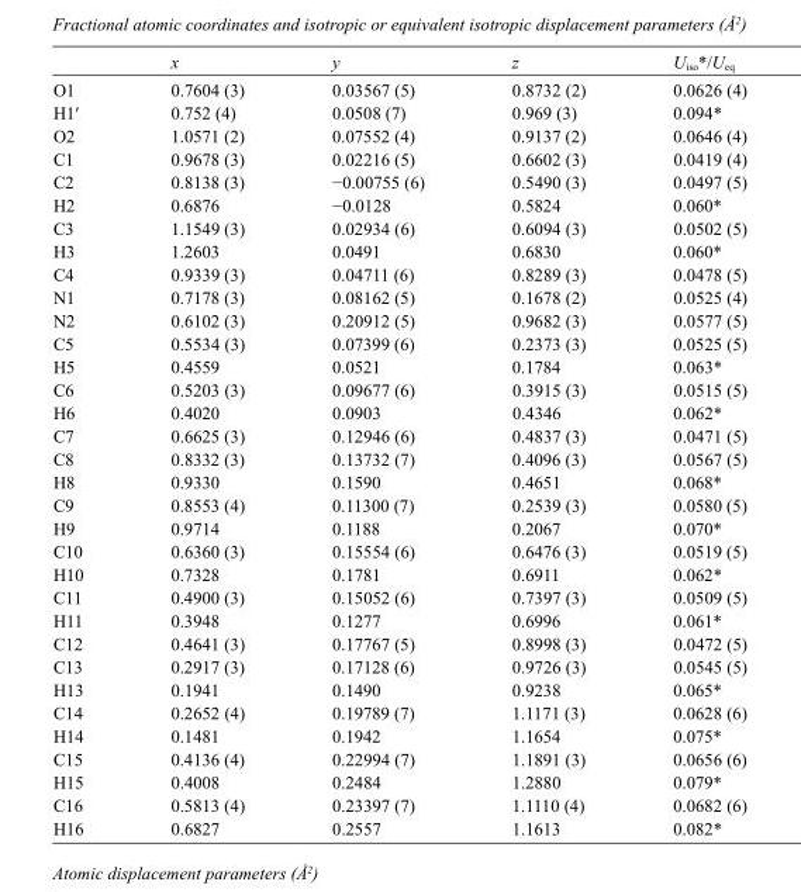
<table><thead><tr><td></td><td>x</td><td>y</td><td>z</td><td>U<sub>iso</sub>*/U<sub>eq</sub></td></tr></thead><tbody><tr><td>O1</td><td>0.7604 (3)</td><td>0.03567 (5)</td><td>0.8732 (2)</td><td>0.0626 (4)</td></tr><tr><td>H1′</td><td>0.752 (4)</td><td>0.0508 (7)</td><td>0.969 (3)</td><td>0.094*</td></tr><tr><td>O2</td><td>1.0571 (2)</td><td>0.07552 (4)</td><td>0.9137 (2)</td><td>0.0646 (4)</td></tr><tr><td>C1</td><td>0.9678 (3)</td><td>0.02216 (5)</td><td>0.6602 (3)</td><td>0.0419 (4)</td></tr><tr><td>C2</td><td>0.8138 (3)</td><td>−0.00755 (6)</td><td>0.5490 (3)</td><td>0.0497 (5)</td></tr><tr><td>H2</td><td>0.6876</td><td>−0.0128</td><td>0.5824</td><td>0.060*</td></tr><tr><td>C3</td><td>1.1549 (3)</td><td>0.02934 (6)</td><td>0.6094 (3)</td><td>0.0502 (5)</td></tr><tr><td>H3</td><td>1.2603</td><td>0.0491</td><td>0.6830</td><td>0.060*</td></tr><tr><td>C4</td><td>0.9339 (3)</td><td>0.04711 (6)</td><td>0.8289 (3)</td><td>0.0478 (5)</td></tr><tr><td>N1</td><td>0.7178 (3)</td><td>0.08162 (5)</td><td>0.1678 (2)</td><td>0.0525 (4)</td></tr><tr><td>N2</td><td>0.6102 (3)</td><td>0.20912 (5)</td><td>0.9682 (3)</td><td>0.0577 (5)</td></tr><tr><td>C5</td><td>0.5534 (3)</td><td>0.07399 (6)</td><td>0.2373 (3)</td><td>0.0525 (5)</td></tr><tr><td>H5</td><td>0.4559</td><td>0.0521</td><td>0.1784</td><td>0.063*</td></tr><tr><td>C6</td><td>0.5203 (3)</td><td>0.09677 (6)</td><td>0.3915 (3)</td><td>0.0515 (5)</td></tr><tr><td>H6</td><td>0.4020</td><td>0.0903</td><td>0.4346</td><td>0.062*</td></tr><tr><td>C7</td><td>0.6625 (3)</td><td>0.12946 (6)</td><td>0.4837 (3)</td><td>0.0471 (5)</td></tr><tr><td>C8</td><td>0.8332 (3)</td><td>0.13732 (7)</td><td>0.4096 (3)</td><td>0.0567 (5)</td></tr><tr><td>H8</td><td>0.9330</td><td>0.1590</td><td>0.4651</td><td>0.068*</td></tr><tr><td>C9</td><td>0.8553 (4)</td><td>0.11300 (7)</td><td>0.2539 (3)</td><td>0.0580 (5)</td></tr><tr><td>H9</td><td>0.9714</td><td>0.1188</td><td>0.2067</td><td>0.070*</td></tr><tr><td>C10</td><td>0.6360 (3)</td><td>0.15554 (6)</td><td>0.6476 (3)</td><td>0.0519 (5)</td></tr><tr><td>H10</td><td>0.7328</td><td>0.1781</td><td>0.6911</td><td>0.062*</td></tr><tr><td>C11</td><td>0.4900 (3)</td><td>0.15052 (6)</td><td>0.7397 (3)</td><td>0.0509 (5)</td></tr><tr><td>H11</td><td>0.3948</td><td>0.1277</td><td>0.6996</td><td>0.061*</td></tr><tr><td>C12</td><td>0.4641 (3)</td><td>0.17767 (5)</td><td>0.8998 (3)</td><td>0.0472 (5)</td></tr><tr><td>C13</td><td>0.2917 (3)</td><td>0.17128 (6)</td><td>0.9726 (3)</td><td>0.0545 (5)</td></tr><tr><td>H13</td><td>0.1941</td><td>0.1490</td><td>0.9238</td><td>0.065*</td></tr><tr><td>C14</td><td>0.2652 (4)</td><td>0.19789 (7)</td><td>1.1171 (3)</td><td>0.0628 (6)</td></tr><tr><td>H14</td><td>0.1481</td><td>0.1942</td><td>1.1654</td><td>0.075*</td></tr><tr><td>C15</td><td>0.4136 (4)</td><td>0.22994 (7)</td><td>1.1891 (3)</td><td>0.0656 (6)</td></tr><tr><td>H15</td><td>0.4008</td><td>0.2484</td><td>1.2880</td><td>0.079*</td></tr><tr><td>C16</td><td>0.5813 (4)</td><td>0.23397 (7)</td><td>1.1110 (4)</td><td>0.0682 (6)</td></tr><tr><td>H16</td><td>0.6827</td><td>0.2557</td><td>1.1613</td><td>0.082*</td></tr></tbody></table>